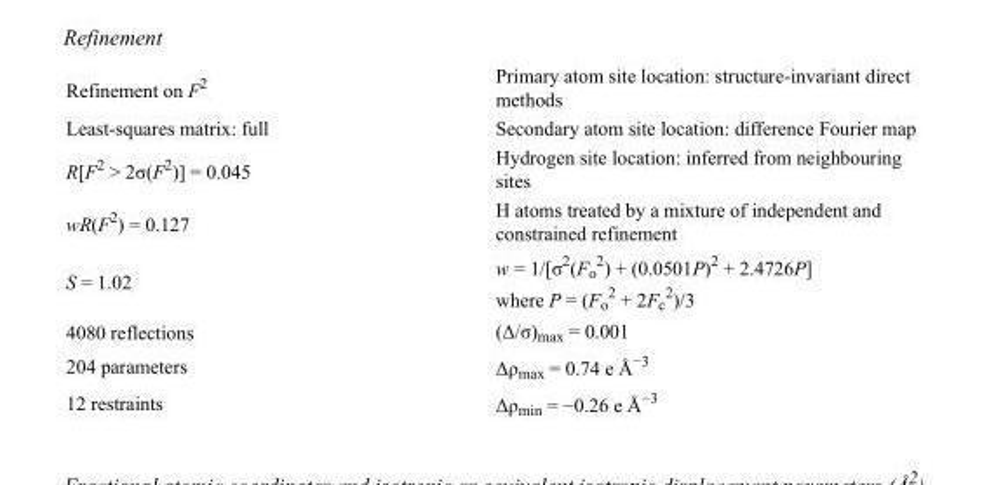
<table><tbody><tr><td>Refinement on F<sup>2</sup></td><td>Primary atom site location: structure-invariant direct methods</td></tr><tr><td>Least-squares matrix: full</td><td>Secondary atom site location: difference Fourier map</td></tr><tr><td>R[F<sup>2</sup> &gt; 2σ(F<sup>2</sup>)] = 0.045</td><td>Hydrogen site location: inferred from neighbouring sites</td></tr><tr><td>wR(F<sup>2</sup>) = 0.127</td><td>H atoms treated by a mixture of independent and constrained refinement</td></tr><tr><td>S = 1.02</td><td>w = 1/[σ<sup>2</sup>(F<sub>o</sub> <sup>2</sup>) + (0.0501P)<sup>2</sup> + 2.4726P] where P = (F<sub>o</sub> <sup>2</sup> + 2F<sub>c</sub> <sup>2</sup>)/3</td></tr><tr><td>4080 reflections</td><td>(Δ/σ)<sub>max</sub> = 0.001</td></tr><tr><td>204 parameters</td><td>Δρ<sub>max</sub> = 0.74 e Å<sup>−3</sup></td></tr><tr><td>12 restraints</td><td>Δρ<sub>min</sub> = −0.26 e Å<sup>−3</sup></td></tr></tbody></table>